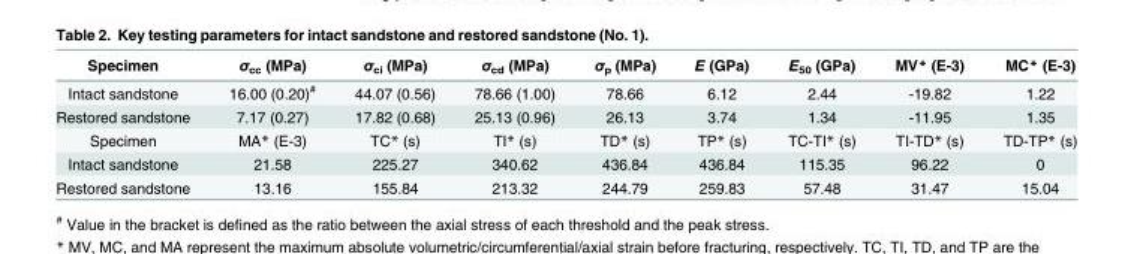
<table><thead><tr><td>Specimen</td><td>σ<sub>cc</sub> (MPa)</td><td>σ<sub>ci</sub> (MPa)</td><td>σ<sub>cd</sub> (MPa)</td><td>σ<sub>p</sub> (MPa)</td><td>E (GPa)</td><td>E<sub>50</sub> (GPa)</td><td>MV* (E-3)</td><td>MC* (E-3)</td></tr></thead><tbody><tr><td>Intact sandstone</td><td>16.00 (0.20)<sup>#</sup></td><td>44.07 (0.56)</td><td>78.66 (1.00)</td><td>78.66</td><td>6.12</td><td>2.44</td><td>-19.82</td><td>1.22</td></tr><tr><td>Restored sandstone</td><td>7.17 (0.27)</td><td>17.82 (0.68)</td><td>25.13 (0.96)</td><td>26.13</td><td>3.74</td><td>1.34</td><td>-11.95</td><td>1.35</td></tr><tr><td>Specimen</td><td>MA* (E-3)</td><td>TC* (s)</td><td>TI* (s)</td><td>TD* (s)</td><td>TP* (s)</td><td>TC-TI* (s)</td><td>TI-TD* (s)</td><td>TD-TP* (s)</td></tr><tr><td>Intact sandstone</td><td>21.58</td><td>225.27</td><td>340.62</td><td>436.84</td><td>436.84</td><td>115.35</td><td>96.22</td><td>0</td></tr><tr><td>Restored sandstone</td><td>13.16</td><td>155.84</td><td>213.32</td><td>244.79</td><td>259.83</td><td>57.48</td><td>31.47</td><td>15.04</td></tr></tbody></table>